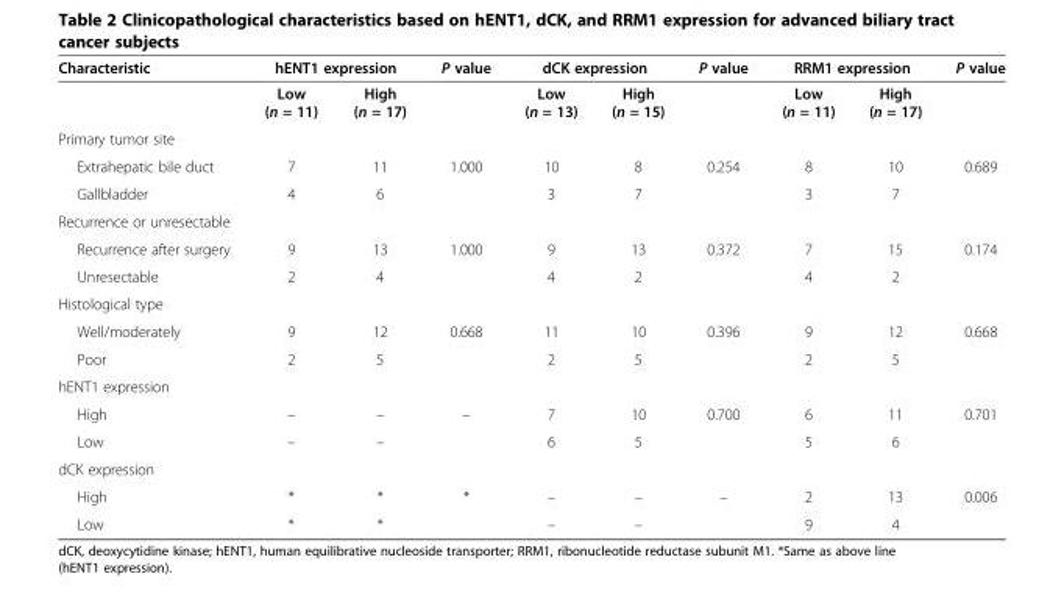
<table><thead><tr><td rowspan="2">Characteristic</td><td colspan="2">hENT1 expression</td><td rowspan="2">P value</td><td colspan="2">dCK expression</td><td rowspan="2">P value</td><td colspan="2">RRM1 expression</td><td rowspan="2">P value</td></tr><tr><td>Low (n = 11)</td><td>High (n = 17)</td><td>Low (n = 13)</td><td>High (n = 15)</td><td>Low (n = 11)</td><td>High (n = 17)</td></tr></thead><tbody><tr><td colspan="10">Primary tumor site</td></tr><tr><td>Extrahepatic bile duct</td><td>7</td><td>11</td><td>1.000</td><td>10</td><td>8</td><td>0.254</td><td>8</td><td>10</td><td>0.689</td></tr><tr><td>Gallbladder</td><td>4</td><td>6</td><td></td><td>3</td><td>7</td><td></td><td>3</td><td>7</td><td></td></tr><tr><td colspan="10">Recurrence or unresectable</td></tr><tr><td>Recurrence after surgery</td><td>9</td><td>13</td><td>1.000</td><td>9</td><td>13</td><td>0.372</td><td>7</td><td>15</td><td>0.174</td></tr><tr><td>Unresectable</td><td>2</td><td>4</td><td></td><td>4</td><td>2</td><td></td><td>4</td><td>2</td><td></td></tr><tr><td colspan="10">Histological type</td></tr><tr><td>Well/moderately</td><td>9</td><td>12</td><td>0.668</td><td>11</td><td>10</td><td>0.396</td><td>9</td><td>12</td><td>0.668</td></tr><tr><td>Poor</td><td>2</td><td>5</td><td></td><td>2</td><td>5</td><td></td><td>2</td><td>5</td><td></td></tr><tr><td colspan="10">hENT1 expression</td></tr><tr><td>High</td><td>–</td><td>–</td><td>–</td><td>7</td><td>10</td><td>0.700</td><td>6</td><td>11</td><td>0.701</td></tr><tr><td>Low</td><td>–</td><td>–</td><td></td><td>6</td><td>5</td><td></td><td>5</td><td>6</td><td></td></tr><tr><td colspan="10">dCK expression</td></tr><tr><td>High</td><td>*</td><td>*</td><td>*</td><td>–</td><td>–</td><td>–</td><td>2</td><td>13</td><td>0.006</td></tr><tr><td>Low</td><td>*</td><td>*</td><td></td><td>–</td><td>–</td><td></td><td>9</td><td>4</td><td></td></tr></tbody></table>